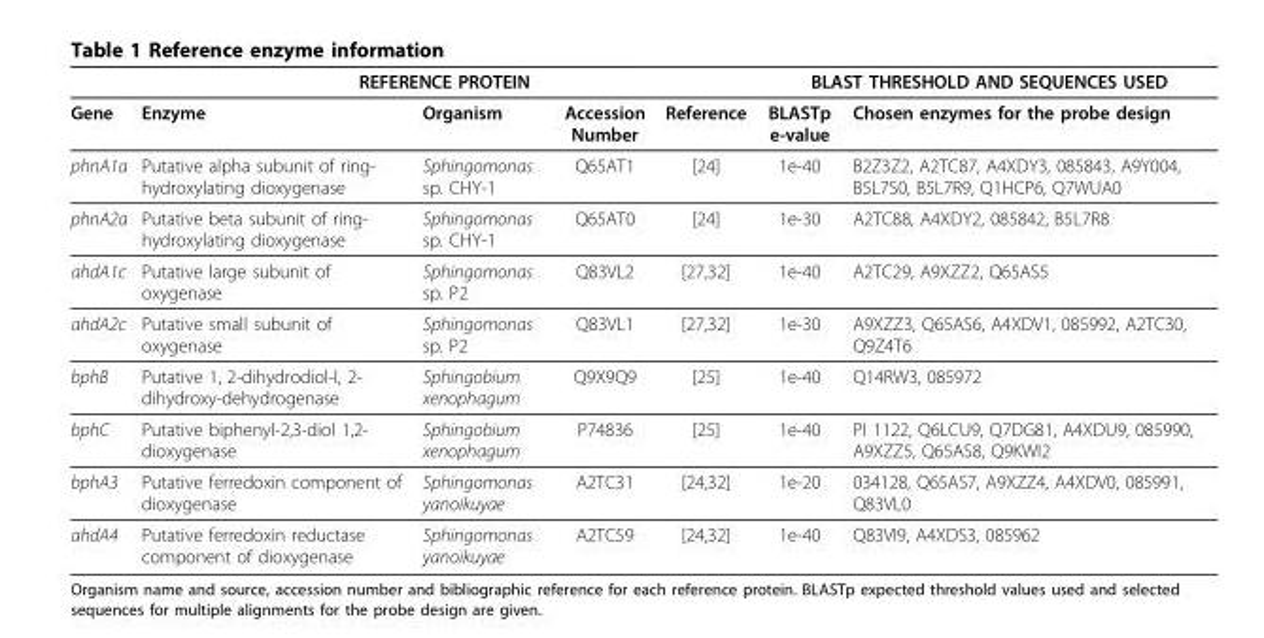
<table><thead><tr><td rowspan="2">Gene</td><td colspan="4">REFERENCE PROTEIN</td><td colspan="2">BLAST THRESHOLD AND SEQUENCES USED</td></tr><tr><td>Enzyme</td><td>Organism</td><td>Accession Number</td><td>Reference</td><td>BLASTp e-value</td><td>Chosen enzymes for the probe design</td></tr></thead><tbody><tr><td>phnA1a</td><td>Putative alpha subunit of ring- hydroxylating dioxygenase</td><td>Sphingomonas sp. CHY-1</td><td>Q65AT1</td><td>[24]</td><td>1e-40</td><td>B2Z3Z2, A2TC87, A4XDY3, 085843, A9Y004, B5L7S0, B5L7R9, Q1HCP6, Q7WUA0</td></tr><tr><td>phnA2a</td><td>Putative beta subunit of ring- hydroxylating dioxygenase</td><td>Sphingomonas sp. CHY-1</td><td>Q65AT0</td><td>[24]</td><td>1e-30</td><td>A2TC88, A4XDY2, 085842, B5L7R8</td></tr><tr><td>ahdA1c</td><td>Putative large subunit of oxygenase</td><td>Sphingomonas sp. P2</td><td>Q83VL2</td><td>[27,32]</td><td>1e-40</td><td>A2TC29, A9XZZ2, Q65AS5</td></tr><tr><td>ahdA2c</td><td>Putative small subunit of oxygenase</td><td>Sphingomonas sp. P2</td><td>Q83VL1</td><td>[27,32]</td><td>1e-30</td><td>A9XZZ3, Q65AS6, A4XDV1, 085992, A2TC30, Q9Z4T6</td></tr><tr><td>bphB</td><td>Putative 1, 2-dihydrodiol-l, 2- dihydroxy-dehydrogenase</td><td>Sphingobium xenophagum</td><td>Q9X9Q9</td><td>[25]</td><td>1e-40</td><td>Q14RW3, 085972</td></tr><tr><td>bphC</td><td>Putative biphenyl-2,3-diol 1,2- dioxygenase</td><td>Sphingobium xenophagum</td><td>P74836</td><td>[25]</td><td>1e-40</td><td>PI 1122, Q6LCU9, Q7DG81, A4XDU9, 085990, A9XZZ5, Q65AS8, Q9KWI2</td></tr><tr><td>bphA3</td><td>Putative ferredoxin component of dioxygenase</td><td>Sphingomonas yanoikuyae</td><td>A2TC31</td><td>[24,32]</td><td>1e-20</td><td>034128, Q65AS7, A9XZZ4, A4XDV0, 085991, Q83VL0</td></tr><tr><td>ahdA4</td><td>Putative ferredoxin reductase component of dioxygenase</td><td>Sphingomonas yanoikuyae</td><td>A2TC59</td><td>[24,32]</td><td>1e-40</td><td>Q83VI9, A4XDS3, 085962</td></tr></tbody></table>